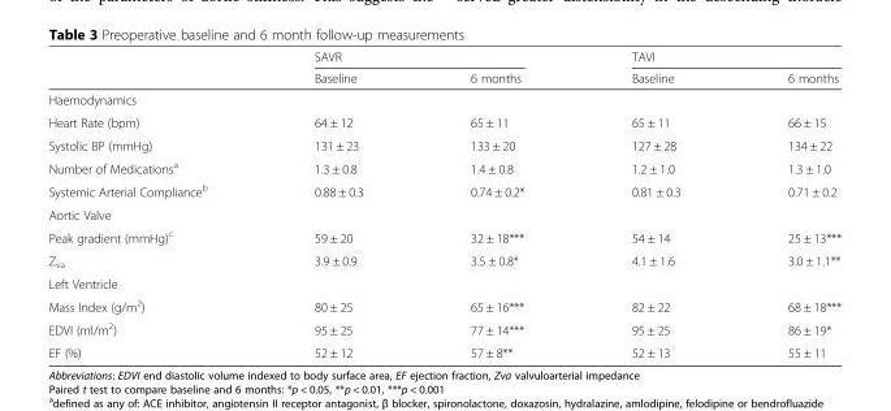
<table><thead><tr><td rowspan="2"></td><td colspan="2">SAVR</td><td colspan="2">TAVI</td></tr><tr><td>Baseline</td><td>6 months</td><td>Baseline</td><td>6 months</td></tr></thead><tbody><tr><td colspan="5">Haemodynamics</td></tr><tr><td>Heart Rate (bpm)</td><td>64 ± 12</td><td>65 ± 11</td><td>65 ± 11</td><td>66 ± 15</td></tr><tr><td>Systolic BP (mmHg)</td><td>131 ± 23</td><td>133 ± 20</td><td>127 ± 28</td><td>134 ± 22</td></tr><tr><td>Number of Medications<sup>a</sup></td><td>1.3 ± 0.8</td><td>1.4 ± 0.8</td><td>1.2 ± 1.0</td><td>1.3 ± 1.0</td></tr><tr><td>Systemic Arterial Compliance<sup>b</sup></td><td>0.88 ± 0.3</td><td>0.74 ± 0.2*</td><td>0.81 ± 0.3</td><td>0.71 ± 0.2</td></tr><tr><td colspan="5">Aortic Valve</td></tr><tr><td>Peak gradient (mmHg)<sup>c</sup></td><td>59 ± 20</td><td>32 ± 18***</td><td>54 ± 14</td><td>25 ± 13***</td></tr><tr><td>Z<sub>va</sub></td><td>3.9 ± 0.9</td><td>3.5 ± 0.8*</td><td>4.1 ± 1.6</td><td>3.0 ± 1.1**</td></tr><tr><td colspan="5">Left Ventricle</td></tr><tr><td>Mass Index (g/m<sup>2</sup>)</td><td>80 ± 25</td><td>65 ± 16***</td><td>82 ± 22</td><td>68 ± 18***</td></tr><tr><td>EDVI (ml/m<sup>2</sup>)</td><td>95 ± 25</td><td>77 ± 14***</td><td>95 ± 25</td><td>86 ± 19*</td></tr><tr><td>EF (%)</td><td>52 ± 12</td><td>57 ± 8**</td><td>52 ± 13</td><td>55 ± 11</td></tr></tbody></table>